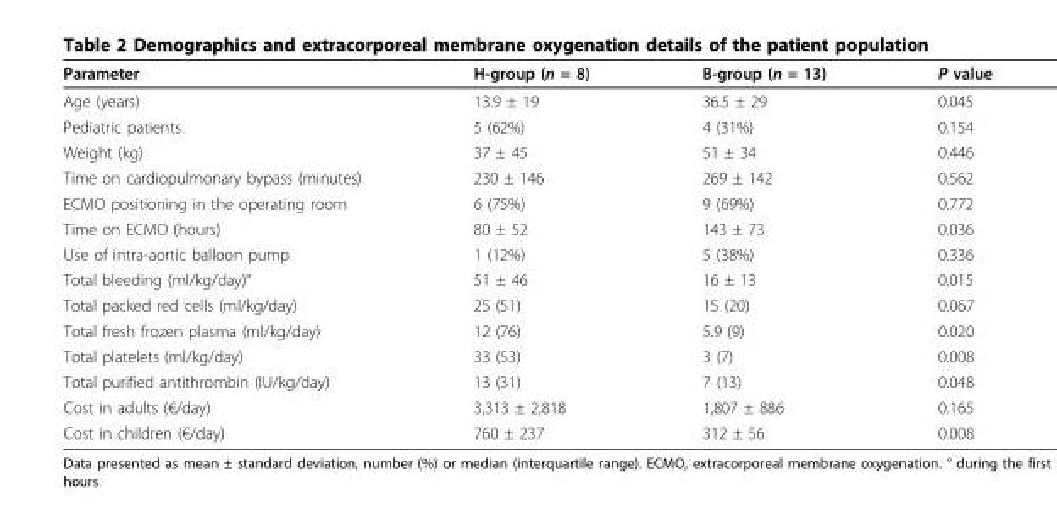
<table><thead><tr><td>Parameter</td><td>H-group (n = 8)</td><td>B-group (n = 13)</td><td>P value</td></tr></thead><tbody><tr><td>Age (years)</td><td>13.9 ± 19</td><td>36.5 ± 29</td><td>0.045</td></tr><tr><td>Pediatric patients</td><td>5 (62%)</td><td>4 (31%)</td><td>0.154</td></tr><tr><td>Weight (kg)</td><td>37 ± 45</td><td>51 ± 34</td><td>0.446</td></tr><tr><td>Time on cardiopulmonary bypass (minutes)</td><td>230 ± 146</td><td>269 ± 142</td><td>0.562</td></tr><tr><td>ECMO positioning in the operating room</td><td>6 (75%)</td><td>9 (69%)</td><td>0.772</td></tr><tr><td>Time on ECMO (hours)</td><td>80 ± 52</td><td>143 ± 73</td><td>0.036</td></tr><tr><td>Use of intra-aortic balloon pump</td><td>1 (12%)</td><td>5 (38%)</td><td>0.336</td></tr><tr><td>Total bleeding (ml/kg/day)°</td><td>51 ± 46</td><td>16 ± 13</td><td>0.015</td></tr><tr><td>Total packed red cells (ml/kg/day)</td><td>25 (51)</td><td>15 (20)</td><td>0.067</td></tr><tr><td>Total fresh frozen plasma (ml/kg/day)</td><td>12 (76)</td><td>5.9 (9)</td><td>0.020</td></tr><tr><td>Total platelets (ml/kg/day)</td><td>33 (53)</td><td>3 (7)</td><td>0.008</td></tr><tr><td>Total purified antithrombin (IU/kg/day)</td><td>13 (31)</td><td>7 (13)</td><td>0.048</td></tr><tr><td>Cost in adults (€/day)</td><td>3,313 ± 2,818</td><td>1,807 ± 886</td><td>0.165</td></tr><tr><td>Cost in children (€/day)</td><td>760 ± 237</td><td>312 ± 56</td><td>0.008</td></tr></tbody></table>